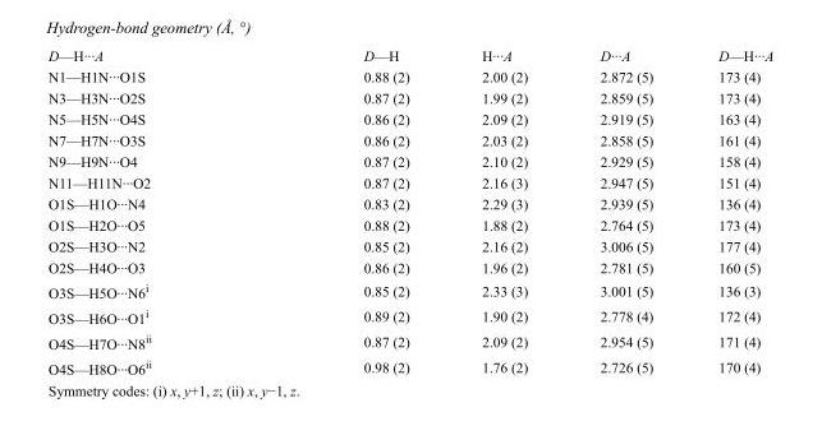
<table><tbody><tr><td>D—H···A</td><td>D—H</td><td>H···A</td><td>D···A</td><td>D—H···A</td></tr><tr><td>N1—H1N···O1S</td><td>0.88 (2)</td><td>2.00 (2)</td><td>2.872 (5)</td><td>173 (4)</td></tr><tr><td>N3—H3N···O2S</td><td>0.87 (2)</td><td>1.99 (2)</td><td>2.859 (5)</td><td>173 (4)</td></tr><tr><td>N5—H5N···O4S</td><td>0.86 (2)</td><td>2.09 (2)</td><td>2.919 (5)</td><td>163 (4)</td></tr><tr><td>N7—H7N···O3S</td><td>0.86 (2)</td><td>2.03 (2)</td><td>2.858 (5)</td><td>161 (4)</td></tr><tr><td>N9—H9N···O4</td><td>0.87 (2)</td><td>2.10 (2)</td><td>2.929 (5)</td><td>158 (4)</td></tr><tr><td>N11—H11N···O2</td><td>0.87 (2)</td><td>2.16 (3)</td><td>2.947 (5)</td><td>151 (4)</td></tr><tr><td>O1S—H1O···N4</td><td>0.83 (2)</td><td>2.29 (3)</td><td>2.939 (5)</td><td>136 (4)</td></tr><tr><td>O1S—H2O···O5</td><td>0.88 (2)</td><td>1.88 (2)</td><td>2.764 (5)</td><td>173 (4)</td></tr><tr><td>O2S—H3O···N2</td><td>0.85 (2)</td><td>2.16 (2)</td><td>3.006 (5)</td><td>177 (4)</td></tr><tr><td>O2S—H4O···O3</td><td>0.86 (2)</td><td>1.96 (2)</td><td>2.781 (5)</td><td>160 (5)</td></tr><tr><td>O3S—H5O···N6<sup>i</sup></td><td>0.85 (2)</td><td>2.33 (3)</td><td>3.001 (5)</td><td>136 (3)</td></tr><tr><td>O3S—H6O···O1<sup>i</sup></td><td>0.89 (2)</td><td>1.90 (2)</td><td>2.778 (4)</td><td>172 (4)</td></tr><tr><td>O4S—H7O···N8<sup>ii</sup></td><td>0.87 (2)</td><td>2.09 (2)</td><td>2.954 (5)</td><td>171 (4)</td></tr><tr><td>O4S—H8O···O6<sup>ii</sup></td><td>0.98 (2)</td><td>1.76 (2)</td><td>2.726 (5)</td><td>170 (4)</td></tr></tbody></table>